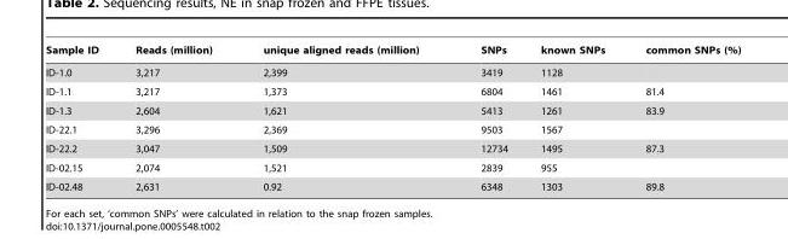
<table><thead><tr><td>Sample ID</td><td>Reads (million)</td><td>unique aligned reads (million)</td><td>SNPs</td><td>known SNPs</td><td>common SNPs (%)</td></tr></thead><tbody><tr><td>ID-1.0</td><td>3,217</td><td>2,399</td><td>3419</td><td>1128</td><td></td></tr><tr><td>ID-1.1</td><td>3,217</td><td>1,373</td><td>6804</td><td>1461</td><td>81.4</td></tr><tr><td>ID-1.3</td><td>2,604</td><td>1,621</td><td>5413</td><td>1261</td><td>83.9</td></tr><tr><td>ID-22.1</td><td>3,296</td><td>2,369</td><td>9503</td><td>1567</td><td></td></tr><tr><td>ID-22.2</td><td>3,047</td><td>1,509</td><td>12734</td><td>1495</td><td>87.3</td></tr><tr><td>ID-02.15</td><td>2,074</td><td>1,521</td><td>2839</td><td>955</td><td></td></tr><tr><td>ID-02.48</td><td>2,631</td><td>0.92</td><td>6348</td><td>1303</td><td>89.8</td></tr></tbody></table>